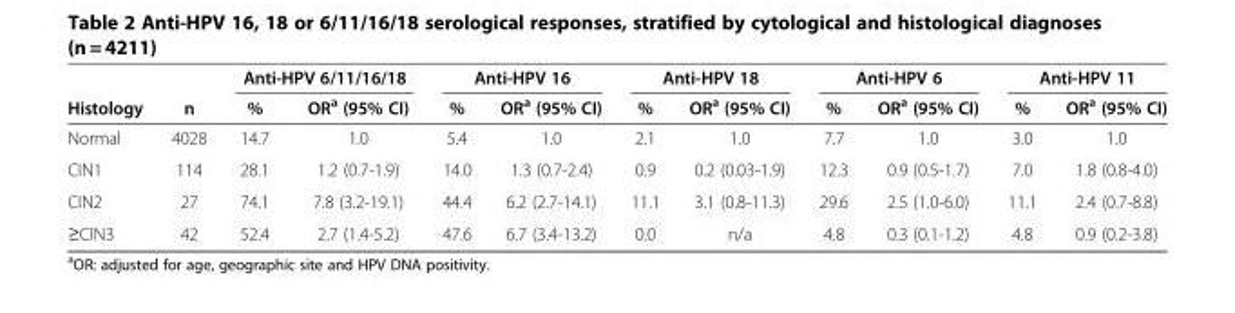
<table><thead><tr><td rowspan="2">Histology</td><td rowspan="2">n</td><td colspan="2">Anti-HPV 6/11/16/18</td><td colspan="2">Anti-HPV 16</td><td colspan="2">Anti-HPV 18</td><td colspan="2">Anti-HPV 6</td><td colspan="2">Anti-HPV 11</td></tr><tr><td>%</td><td>OR<sup>a</sup> (95% CI)</td><td>%</td><td>OR<sup>a</sup> (95% CI)</td><td>%</td><td>OR<sup>a</sup> (95% CI)</td><td>%</td><td>OR<sup>a</sup> (95% CI)</td><td>%</td><td>OR<sup>a</sup> (95% CI)</td></tr></thead><tbody><tr><td>Normal</td><td>4028</td><td>14.7</td><td>1.0</td><td>5.4</td><td>1.0</td><td>2.1</td><td>1.0</td><td>7.7</td><td>1.0</td><td>3.0</td><td>1.0</td></tr><tr><td>CIN1</td><td>114</td><td>28.1</td><td>1.2 (0.7-1.9)</td><td>14.0</td><td>1.3 (0.7-2.4)</td><td>0.9</td><td>0.2 (0.03-1.9)</td><td>12.3</td><td>0.9 (0.5-1.7)</td><td>7.0</td><td>1.8 (0.8-4.0)</td></tr><tr><td>CIN2</td><td>27</td><td>74.1</td><td>7.8 (3.2-19.1)</td><td>44.4</td><td>6.2 (2.7-14.1)</td><td>11.1</td><td>3.1 (0.8-11.3)</td><td>29.6</td><td>2.5 (1.0-6.0)</td><td>11.1</td><td>2.4 (0.7-8.8)</td></tr><tr><td>≥CIN3</td><td>42</td><td>52.4</td><td>2.7 (1.4-5.2)</td><td>47.6</td><td>6.7 (3.4-13.2)</td><td>0.0</td><td>n/a</td><td>4.8</td><td>0.3 (0.1-1.2)</td><td>4.8</td><td>0.9 (0.2-3.8)</td></tr></tbody></table>